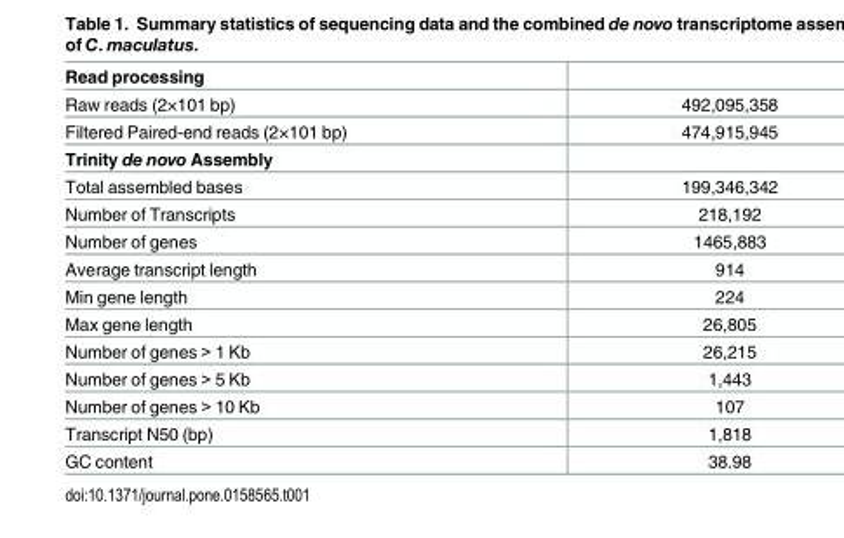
<table><tbody><tr><td colspan="2">Read processing</td></tr><tr><td>Raw reads (2×101 bp)</td><td>492,095,358</td></tr><tr><td>Filtered Paired-end reads (2×101 bp)</td><td>474,915,945</td></tr><tr><td colspan="2">Trinity de novo Assembly</td></tr><tr><td>Total assembled bases</td><td>199,346,342</td></tr><tr><td>Number of Transcripts</td><td>218,192</td></tr><tr><td>Number of genes</td><td>1465,883</td></tr><tr><td>Average transcript length</td><td>914</td></tr><tr><td>Min gene length</td><td>224</td></tr><tr><td>Max gene length</td><td>26,805</td></tr><tr><td>Number of genes &gt; 1 Kb</td><td>26,215</td></tr><tr><td>Number of genes &gt; 5 Kb</td><td>1,443</td></tr><tr><td>Number of genes &gt; 10 Kb</td><td>107</td></tr><tr><td>Transcript N50 (bp)</td><td>1,818</td></tr><tr><td>GC content</td><td>38.98</td></tr></tbody></table>